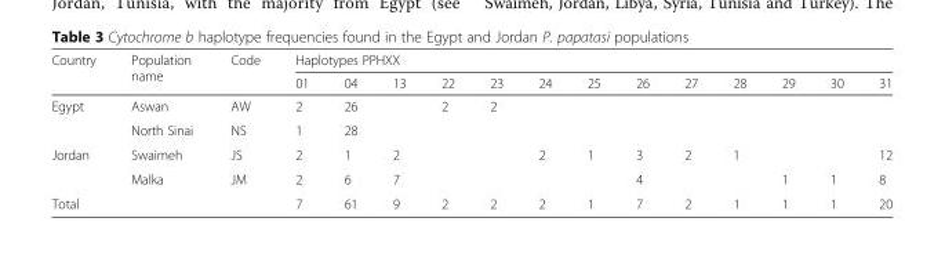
<table><thead><tr><td rowspan="2">Country</td><td rowspan="2">Population name</td><td rowspan="2">Code</td><td colspan="13">Haplotypes PPHXX</td></tr><tr><td>01</td><td>04</td><td>13</td><td>22</td><td>23</td><td>24</td><td>25</td><td>26</td><td>27</td><td>28</td><td>29</td><td>30</td><td>31</td></tr></thead><tbody><tr><td rowspan="2">Egypt</td><td>Aswan</td><td>AW</td><td>2</td><td>26</td><td></td><td>2</td><td>2</td><td></td><td></td><td></td><td></td><td></td><td></td><td></td><td></td></tr><tr><td>North Sinai</td><td>NS</td><td>1</td><td>28</td><td></td><td></td><td></td><td></td><td></td><td></td><td></td><td></td><td></td><td></td><td></td></tr><tr><td rowspan="2">Jordan</td><td>Swaimeh</td><td>JS</td><td>2</td><td>1</td><td>2</td><td></td><td></td><td>2</td><td>1</td><td>3</td><td>2</td><td>1</td><td></td><td></td><td>12</td></tr><tr><td>Malka</td><td>JM</td><td>2</td><td>6</td><td>7</td><td></td><td></td><td></td><td></td><td>4</td><td></td><td></td><td>1</td><td>1</td><td>8</td></tr><tr><td>Total</td><td></td><td></td><td>7</td><td>61</td><td>9</td><td>2</td><td>2</td><td>2</td><td>1</td><td>7</td><td>2</td><td>1</td><td>1</td><td>1</td><td>20</td></tr></tbody></table>